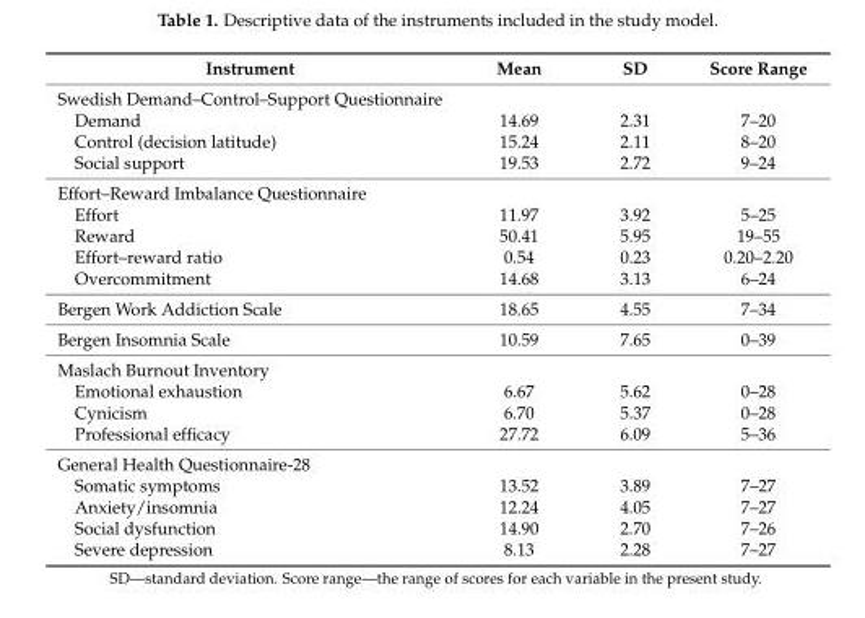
<table><thead><tr><td>Instrument</td><td>Mean</td><td>SD</td><td>Score Range</td></tr></thead><tbody><tr><td colspan="4">Swedish Demand–Control–Support Questionnaire</td></tr><tr><td>Demand</td><td>14.69</td><td>2.31</td><td>7–20</td></tr><tr><td>Control (decision latitude)</td><td>15.24</td><td>2.11</td><td>8–20</td></tr><tr><td>Social support</td><td>19.53</td><td>2.72</td><td>9–24</td></tr><tr><td colspan="4">Effort–Reward Imbalance Questionnaire</td></tr><tr><td>Effort</td><td>11.97</td><td>3.92</td><td>5–25</td></tr><tr><td>Reward</td><td>50.41</td><td>5.95</td><td>19–55</td></tr><tr><td>Effort–reward ratio</td><td>0.54</td><td>0.23</td><td>0.20–2.20</td></tr><tr><td>Overcommitment</td><td>14.68</td><td>3.13</td><td>6–24</td></tr><tr><td>Bergen Work Addiction Scale</td><td>18.65</td><td>4.55</td><td>7–34</td></tr><tr><td>Bergen Insomnia Scale</td><td>10.59</td><td>7.65</td><td>0–39</td></tr><tr><td colspan="4">Maslach Burnout Inventory</td></tr><tr><td>Emotional exhaustion</td><td>6.67</td><td>5.62</td><td>0–28</td></tr><tr><td>Cynicism</td><td>6.70</td><td>5.37</td><td>0–28</td></tr><tr><td>Professional efficacy</td><td>27.72</td><td>6.09</td><td>5–36</td></tr><tr><td colspan="4">General Health Questionnaire-28</td></tr><tr><td>Somatic symptoms</td><td>13.52</td><td>3.89</td><td>7–27</td></tr><tr><td>Anxiety/insomnia</td><td>12.24</td><td>4.05</td><td>7–27</td></tr><tr><td>Social dysfunction</td><td>14.90</td><td>2.70</td><td>7–26</td></tr><tr><td>Severe depression</td><td>8.13</td><td>2.28</td><td>7–27</td></tr></tbody></table>